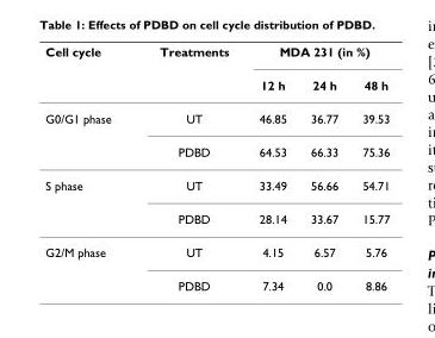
<table><thead><tr><td rowspan="2">Cell cycle</td><td rowspan="2">Treatments</td><td colspan="3">MDA 231 (in %)</td></tr><tr><td>12 h</td><td>24 h</td><td>48 h</td></tr></thead><tbody><tr><td rowspan="2">G0/G1 phase</td><td>UT</td><td>46.85</td><td>36.77</td><td>39.53</td></tr><tr><td>PDBD</td><td>64.53</td><td>66.33</td><td>75.36</td></tr><tr><td rowspan="2">S phase</td><td>UT</td><td>33.49</td><td>56.66</td><td>54.71</td></tr><tr><td>PDBD</td><td>28.14</td><td>33.67</td><td>15.77</td></tr><tr><td rowspan="2">G2/M phase</td><td>UT</td><td>4.15</td><td>6.57</td><td>5.76</td></tr><tr><td>PDBD</td><td>7.34</td><td>0.0</td><td>8.86</td></tr></tbody></table>